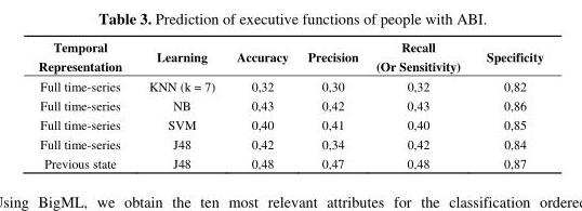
<table><thead><tr><td>Temporal Representation</td><td>Learning</td><td>Accuracy</td><td>Precision</td><td>Recall (Or Sensitivity)</td><td>Specificity</td></tr></thead><tbody><tr><td>Full time-series</td><td>KNN (k = 7)</td><td>0,32</td><td>0,30</td><td>0,32</td><td>0,82</td></tr><tr><td>Full time-series</td><td>NB</td><td>0,43</td><td>0,42</td><td>0,43</td><td>0,86</td></tr><tr><td>Full time-series</td><td>SVM</td><td>0,40</td><td>0,41</td><td>0,40</td><td>0,85</td></tr><tr><td>Full time-series</td><td>J48</td><td>0,42</td><td>0,34</td><td>0,42</td><td>0,84</td></tr><tr><td>Previous state</td><td>J48</td><td>0,48</td><td>0,47</td><td>0,48</td><td>0,87</td></tr></tbody></table>